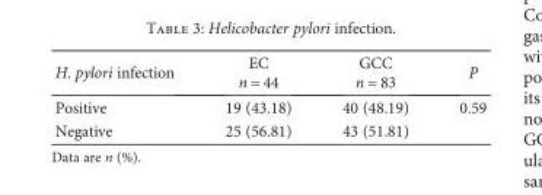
<table><thead><tr><td>H. pylori infection</td><td>EC n = 44</td><td>GCC n = 83</td><td>P</td></tr></thead><tbody><tr><td>Positive</td><td>19 (43.18)</td><td>40 (48.19)</td><td>0.59</td></tr><tr><td>Negative</td><td>25 (56.81)</td><td>43 (51.81)</td><td></td></tr></tbody></table>